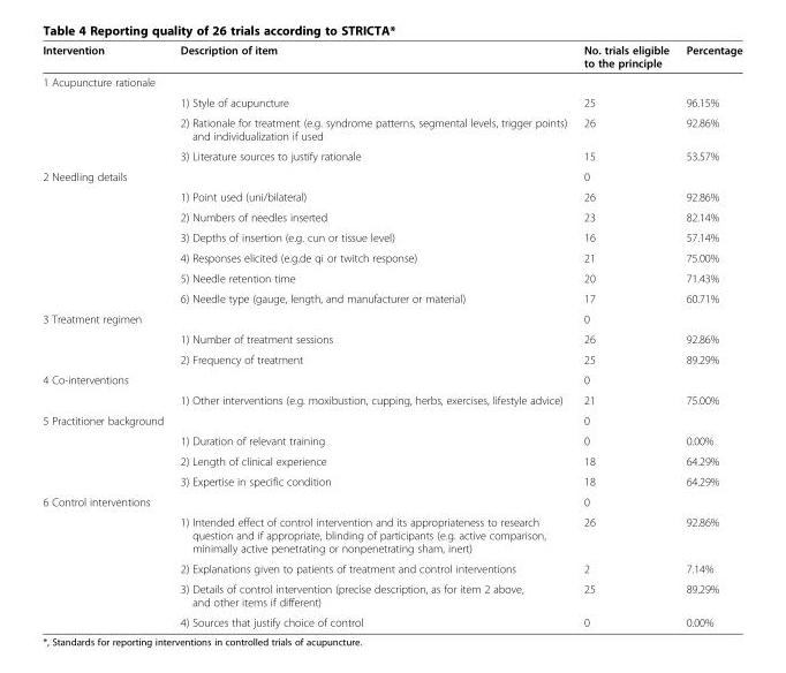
<table><thead><tr><td>Intervention</td><td>Description of item</td><td>No. trials eligible to the principle</td><td>Percentage</td></tr></thead><tbody><tr><td colspan="4">1 Acupuncture rationale</td></tr><tr><td></td><td>1) Style of acupuncture</td><td>25</td><td>96.15%</td></tr><tr><td></td><td>2) Rationale for treatment (e.g. syndrome patterns, segmental levels, trigger points) and individualization if used</td><td>26</td><td>92.86%</td></tr><tr><td></td><td>3) Literature sources to justify rationale</td><td>15</td><td>53.57%</td></tr><tr><td rowspan="7">2 Needling details</td><td></td><td>0</td><td></td></tr><tr><td>1) Point used (uni/bilateral)</td><td>26</td><td>92.86%</td></tr><tr><td>2) Numbers of needles inserted</td><td>23</td><td>82.14%</td></tr><tr><td>3) Depths of insertion (e.g. cun or tissue level)</td><td>16</td><td>57.14%</td></tr><tr><td>4) Responses elicited (e.g.de qi or twitch response)</td><td>21</td><td>75.00%</td></tr><tr><td>5) Needle retention time</td><td>20</td><td>71.43%</td></tr><tr><td>6) Needle type (gauge, length, and manufacturer or material)</td><td>17</td><td>60.71%</td></tr><tr><td rowspan="3">3 Treatment regimen</td><td></td><td>0</td><td></td></tr><tr><td>1) Number of treatment sessions</td><td>26</td><td>92.86%</td></tr><tr><td>2) Frequency of treatment</td><td>25</td><td>89.29%</td></tr><tr><td rowspan="2">4 Co-interventions</td><td></td><td>0</td><td></td></tr><tr><td>1) Other interventions (e.g. moxibustion, cupping, herbs, exercises, lifestyle advice)</td><td>21</td><td>75.00%</td></tr><tr><td rowspan="4">5 Practitioner background</td><td></td><td>0</td><td></td></tr><tr><td>1) Duration of relevant training</td><td>0</td><td>0.00%</td></tr><tr><td>2) Length of clinical experience</td><td>18</td><td>64.29%</td></tr><tr><td>3) Expertise in specific condition</td><td>18</td><td>64.29%</td></tr><tr><td rowspan="5">6 Control interventions</td><td></td><td>0</td><td></td></tr><tr><td>1) Intended effect of control intervention and its appropriateness to research question and if appropriate, blinding of participants (e.g. active comparison, minimally active penetrating or nonpenetrating sham, inert)</td><td>26</td><td>92.86%</td></tr><tr><td>2) Explanations given to patients of treatment and control interventions</td><td>2</td><td>7.14%</td></tr><tr><td>3) Details of control intervention (precise description, as for item 2 above, and other items if different)</td><td>25</td><td>89.29%</td></tr><tr><td>4) Sources that justify choice of control</td><td>0</td><td>0.00%</td></tr></tbody></table>